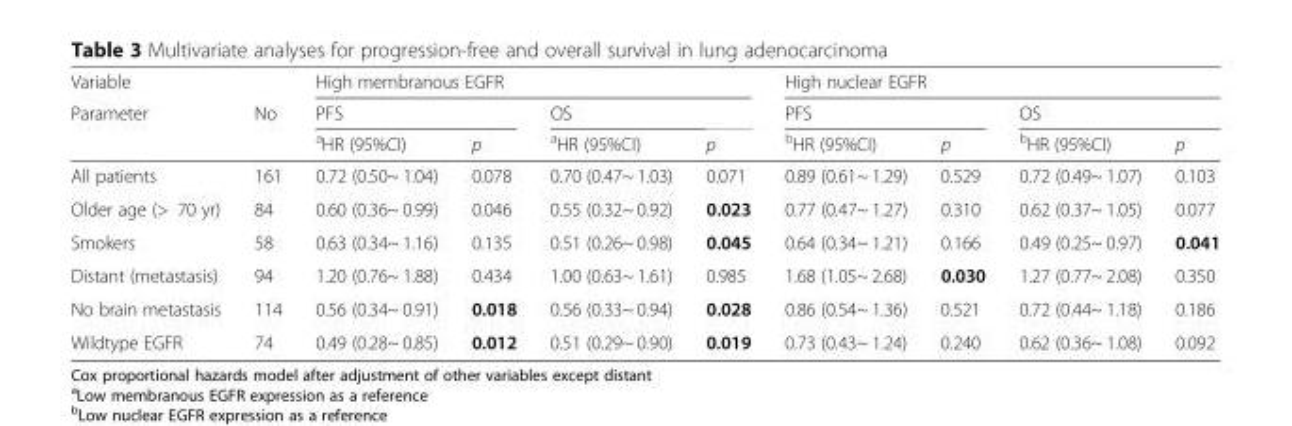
<table><thead><tr><td rowspan="3">Variable Parameter</td><td rowspan="3">No</td><td colspan="4">High membranous EGFR</td><td colspan="4">High nuclear EGFR</td></tr><tr><td colspan="2">PFS</td><td rowspan="2">OS <sup>a</sup>HR (95%CI)</td><td rowspan="2">p</td><td colspan="2">PFS</td><td colspan="2">OS</td></tr><tr><td><sup>a</sup>HR (95%CI)</td><td>p</td><td><sup>b</sup>HR (95%CI)</td><td>p</td><td><sup>b</sup>HR (95%CI)</td><td>p</td></tr></thead><tbody><tr><td>All patients</td><td>161</td><td>0.72 (0.50~ 1.04)</td><td>0.078</td><td>0.70 (0.47~ 1.03)</td><td>0.071</td><td>0.89 (0.61~ 1.29)</td><td>0.529</td><td>0.72 (0.49~ 1.07)</td><td>0.103</td></tr><tr><td>Older age (&gt; 70 yr)</td><td>84</td><td>0.60 (0.36~ 0.99)</td><td>0.046</td><td>0.55 (0.32~ 0.92)</td><td>0.023</td><td>0.77 (0.47~ 1.27)</td><td>0.310</td><td>0.62 (0.37~ 1.05)</td><td>0.077</td></tr><tr><td>Smokers</td><td>58</td><td>0.63 (0.34~ 1.16)</td><td>0.135</td><td>0.51 (0.26~ 0.98)</td><td>0.045</td><td>0.64 (0.34~ 1.21)</td><td>0.166</td><td>0.49 (0.25~ 0.97)</td><td>0.041</td></tr><tr><td>Distant (metastasis)</td><td>94</td><td>1.20 (0.76~ 1.88)</td><td>0.434</td><td>1.00 (0.63~ 1.61)</td><td>0.985</td><td>1.68 (1.05~ 2.68)</td><td>0.030</td><td>1.27 (0.77~ 2.08)</td><td>0.350</td></tr><tr><td>No brain metastasis</td><td>114</td><td>0.56 (0.34~ 0.91)</td><td>0.018</td><td>0.56 (0.33~ 0.94)</td><td>0.028</td><td>0.86 (0.54~ 1.36)</td><td>0.521</td><td>0.72 (0.44~ 1.18)</td><td>0.186</td></tr><tr><td>Wildtype EGFR</td><td>74</td><td>0.49 (0.28~ 0.85)</td><td>0.012</td><td>0.51 (0.29~ 0.90)</td><td>0.019</td><td>0.73 (0.43~ 1.24)</td><td>0.240</td><td>0.62 (0.36~ 1.08)</td><td>0.092</td></tr></tbody></table>